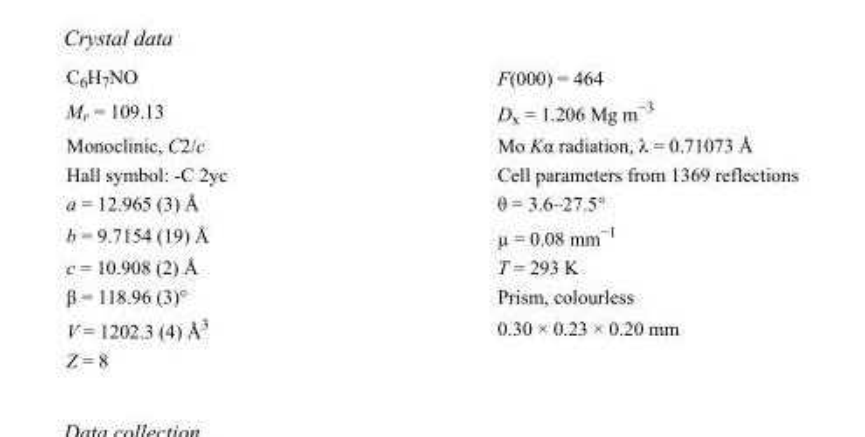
<table><tbody><tr><td>C<sub>6</sub>H<sub>7</sub>NO</td><td>F(000) = 464</td></tr><tr><td>M<sub>r</sub> = 109.13</td><td>D<sub>x</sub> = 1.206 Mg m<sup>−3</sup></td></tr><tr><td>Monoclinic, C2/c</td><td>Mo Kα radiation, λ = 0.71073 Å</td></tr><tr><td>Hall symbol: -C 2yc</td><td>Cell parameters from 1369 reflections</td></tr><tr><td>a = 12.965 (3) Å</td><td>θ = 3.6–27.5°</td></tr><tr><td>b = 9.7154 (19) Å</td><td>µ = 0.08 mm<sup>−1</sup></td></tr><tr><td>c = 10.908 (2) Å</td><td>T = 293 K</td></tr><tr><td>β = 118.96 (3)°</td><td>Prism, colourless</td></tr><tr><td>V = 1202.3 (4) Å<sup>3</sup></td><td>0.30 × 0.23 × 0.20 mm</td></tr><tr><td>Z = 8</td><td></td></tr></tbody></table>